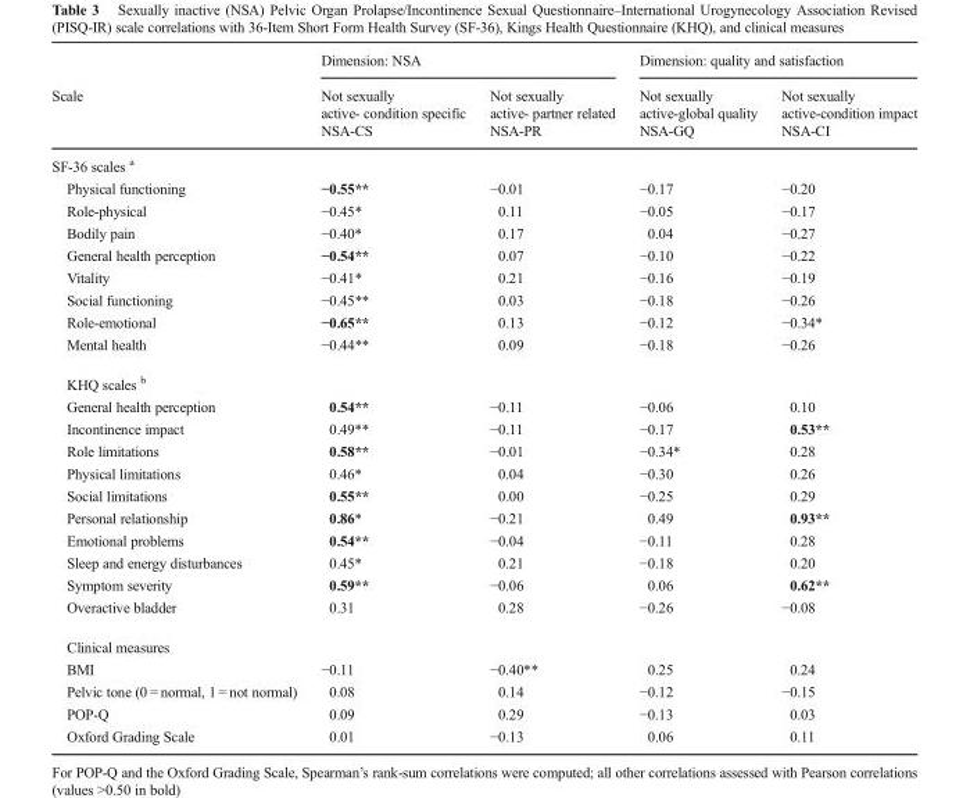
<table><thead><tr><td rowspan="3">Scale</td><td colspan="2">Dimension: NSA</td><td colspan="2">Dimension: quality and satisfaction</td></tr><tr><td rowspan="2">Not sexually active- condition specific NSA-CS</td><td rowspan="2">Not sexually active- partner related NSA-PR</td><td rowspan="2">Not sexually active-global quality NSA-GQ</td><td rowspan="2">Not sexually active-condition impact NSA-CI</td></tr><tr></tr></thead><tbody><tr><td colspan="5">SF-36 scales <sup>a</sup></td></tr><tr><td>Physical functioning</td><td>−0.55**</td><td>−0.01</td><td>−0.17</td><td>−0.20</td></tr><tr><td>Role-physical</td><td>−0.45*</td><td>0.11</td><td>−0.05</td><td>−0.17</td></tr><tr><td>Bodily pain</td><td>−0.40*</td><td>0.17</td><td>0.04</td><td>−0.27</td></tr><tr><td>General health perception</td><td>−0.54**</td><td>0.07</td><td>−0.10</td><td>−0.22</td></tr><tr><td>Vitality</td><td>−0.41*</td><td>0.21</td><td>−0.16</td><td>−0.19</td></tr><tr><td>Social functioning</td><td>−0.45**</td><td>0.03</td><td>−0.18</td><td>−0.26</td></tr><tr><td>Role-emotional</td><td>−0.65**</td><td>0.13</td><td>−0.12</td><td>−0.34*</td></tr><tr><td>Mental health</td><td>−0.44**</td><td>0.09</td><td>−0.18</td><td>−0.26</td></tr><tr><td colspan="5">KHQ scales <sup>b</sup></td></tr><tr><td>General health perception</td><td>0.54**</td><td>−0.11</td><td>−0.06</td><td>0.10</td></tr><tr><td>Incontinence impact</td><td>0.49**</td><td>−0.11</td><td>−0.17</td><td>0.53**</td></tr><tr><td>Role limitations</td><td>0.58**</td><td>−0.01</td><td>−0.34*</td><td>0.28</td></tr><tr><td>Physical limitations</td><td>0.46*</td><td>0.04</td><td>−0.30</td><td>0.26</td></tr><tr><td>Social limitations</td><td>0.55**</td><td>0.00</td><td>−0.25</td><td>0.29</td></tr><tr><td>Personal relationship</td><td>0.86*</td><td>−0.21</td><td>0.49</td><td>0.93**</td></tr><tr><td>Emotional problems</td><td>0.54**</td><td>−0.04</td><td>−0.11</td><td>0.28</td></tr><tr><td>Sleep and energy disturbances</td><td>0.45*</td><td>0.21</td><td>−0.18</td><td>0.20</td></tr><tr><td>Symptom severity</td><td>0.59**</td><td>−0.06</td><td>0.06</td><td>0.62**</td></tr><tr><td>Overactive bladder</td><td>0.31</td><td>0.28</td><td>−0.26</td><td>−0.08</td></tr><tr><td colspan="5">Clinical measures</td></tr><tr><td>BMI</td><td>−0.11</td><td>−0.40**</td><td>0.25</td><td>0.24</td></tr><tr><td>Pelvic tone (0 = normal, 1 = not normal)</td><td>0.08</td><td>0.14</td><td>−0.12</td><td>−0.15</td></tr><tr><td>POP-Q</td><td>0.09</td><td>0.29</td><td>−0.13</td><td>0.03</td></tr><tr><td>Oxford Grading Scale</td><td>0.01</td><td>−0.13</td><td>0.06</td><td>0.11</td></tr></tbody></table>